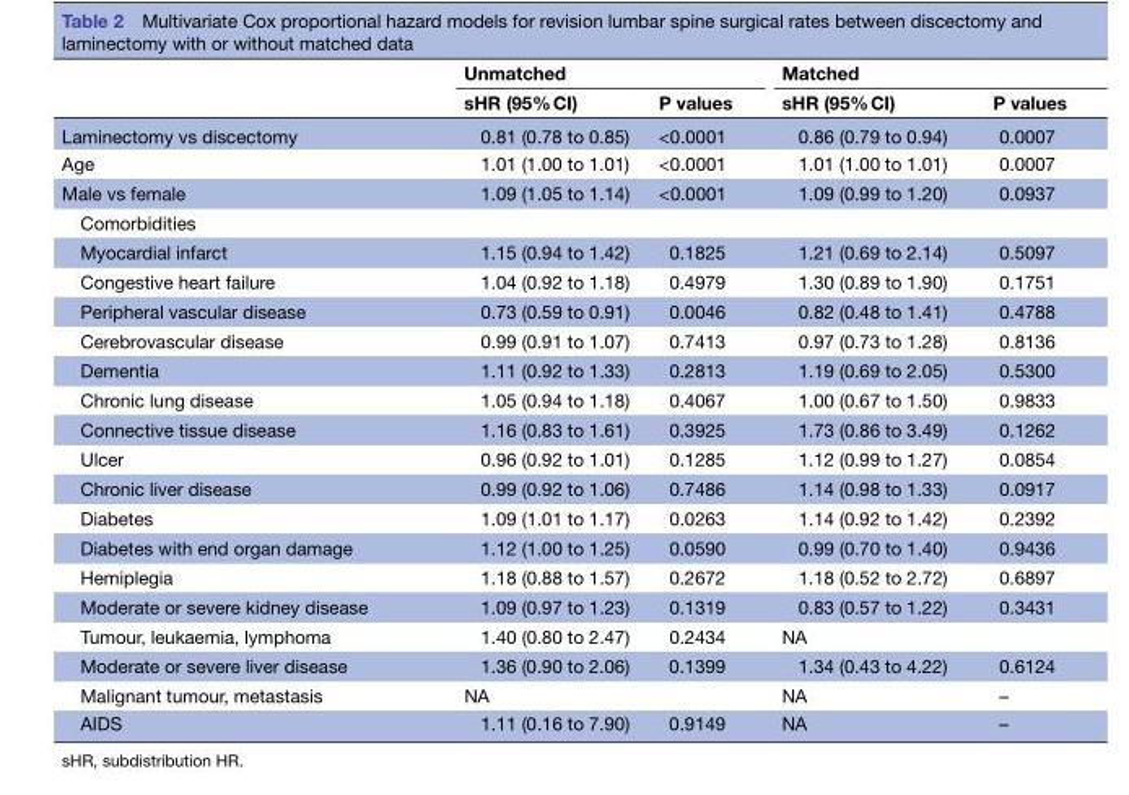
<table><thead><tr><td rowspan="2"></td><td colspan="2">Unmatched</td><td colspan="2">Matched</td></tr><tr><td>sHR (95% CI)</td><td>P values</td><td>sHR (95% CI)</td><td>P values</td></tr></thead><tbody><tr><td>Laminectomy vs discectomy</td><td>0.81 (0.78 to 0.85)</td><td>&lt;0.0001</td><td>0.86 (0.79 to 0.94)</td><td>0.0007</td></tr><tr><td>Age</td><td>1.01 (1.00 to 1.01)</td><td>&lt;0.0001</td><td>1.01 (1.00 to 1.01)</td><td>0.0007</td></tr><tr><td>Male vs female</td><td>1.09 (1.05 to 1.14)</td><td>&lt;0.0001</td><td>1.09 (0.99 to 1.20)</td><td>0.0937</td></tr><tr><td colspan="5">Comorbidities</td></tr><tr><td>Myocardial infarct</td><td>1.15 (0.94 to 1.42)</td><td>0.1825</td><td>1.21 (0.69 to 2.14)</td><td>0.5097</td></tr><tr><td>Congestive heart failure</td><td>1.04 (0.92 to 1.18)</td><td>0.4979</td><td>1.30 (0.89 to 1.90)</td><td>0.1751</td></tr><tr><td>Peripheral vascular disease</td><td>0.73 (0.59 to 0.91)</td><td>0.0046</td><td>0.82 (0.48 to 1.41)</td><td>0.4788</td></tr><tr><td>Cerebrovascular disease</td><td>0.99 (0.91 to 1.07)</td><td>0.7413</td><td>0.97 (0.73 to 1.28)</td><td>0.8136</td></tr><tr><td>Dementia</td><td>1.11 (0.92 to 1.33)</td><td>0.2813</td><td>1.19 (0.69 to 2.05)</td><td>0.5300</td></tr><tr><td>Chronic lung disease</td><td>1.05 (0.94 to 1.18)</td><td>0.4067</td><td>1.00 (0.67 to 1.50)</td><td>0.9833</td></tr><tr><td>Connective tissue disease</td><td>1.16 (0.83 to 1.61)</td><td>0.3925</td><td>1.73 (0.86 to 3.49)</td><td>0.1262</td></tr><tr><td>Ulcer</td><td>0.96 (0.92 to 1.01)</td><td>0.1285</td><td>1.12 (0.99 to 1.27)</td><td>0.0854</td></tr><tr><td>Chronic liver disease</td><td>0.99 (0.92 to 1.06)</td><td>0.7486</td><td>1.14 (0.98 to 1.33)</td><td>0.0917</td></tr><tr><td>Diabetes</td><td>1.09 (1.01 to 1.17)</td><td>0.0263</td><td>1.14 (0.92 to 1.42)</td><td>0.2392</td></tr><tr><td>Diabetes with end organ damage</td><td>1.12 (1.00 to 1.25)</td><td>0.0590</td><td>0.99 (0.70 to 1.40)</td><td>0.9436</td></tr><tr><td>Hemiplegia</td><td>1.18 (0.88 to 1.57)</td><td>0.2672</td><td>1.18 (0.52 to 2.72)</td><td>0.6897</td></tr><tr><td>Moderate or severe kidney disease</td><td>1.09 (0.97 to 1.23)</td><td>0.1319</td><td>0.83 (0.57 to 1.22)</td><td>0.3431</td></tr><tr><td>Tumour, leukaemia, lymphoma</td><td>1.40 (0.80 to 2.47)</td><td>0.2434</td><td>NA</td><td></td></tr><tr><td>Moderate or severe liver disease</td><td>1.36 (0.90 to 2.06)</td><td>0.1399</td><td>1.34 (0.43 to 4.22)</td><td>0.6124</td></tr><tr><td>Malignant tumour, metastasis</td><td>NA</td><td></td><td>NA</td><td>–</td></tr><tr><td>AIDS</td><td>1.11 (0.16 to 7.90)</td><td>0.9149</td><td>NA</td><td>–</td></tr></tbody></table>